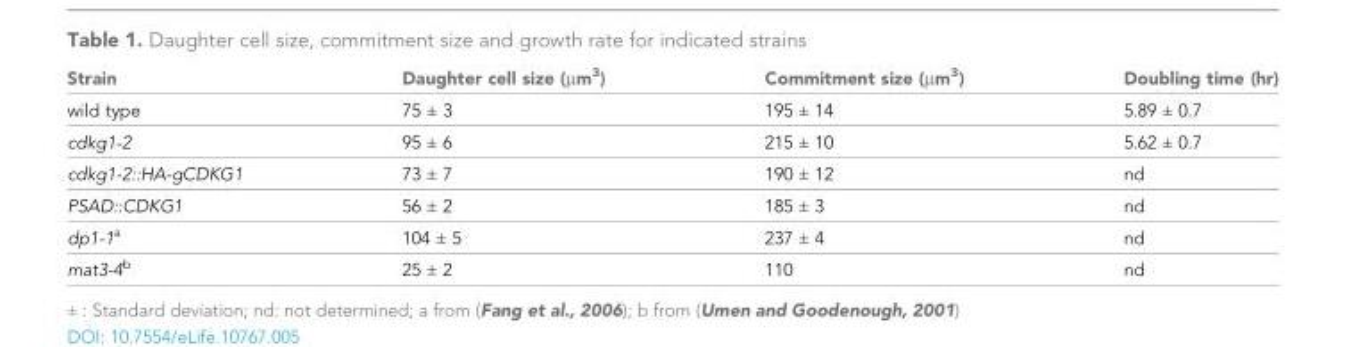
<table><thead><tr><td>Strain</td><td>Daughter cell size (µm<sup>3</sup>)</td><td>Commitment size (µm<sup>3</sup>)</td><td>Doubling time (hr)</td></tr></thead><tbody><tr><td>wild type</td><td>75 ± 3</td><td>195 ± 14</td><td>5.89 ± 0.7</td></tr><tr><td>cdkg1-2</td><td>95 ± 6</td><td>215 ± 10</td><td>5.62 ± 0.7</td></tr><tr><td>cdkg1-2::HA-gCDKG1</td><td>73 ± 7</td><td>190 ± 12</td><td>nd</td></tr><tr><td>PSAD::CDKG1</td><td>56 ± 2</td><td>185 ± 3</td><td>nd</td></tr><tr><td>dp1-1<sup>a</sup></td><td>104 ± 5</td><td>237 ± 4</td><td>nd</td></tr><tr><td>mat3-4<sup>b</sup></td><td>25 ± 2</td><td>110</td><td>nd</td></tr></tbody></table>